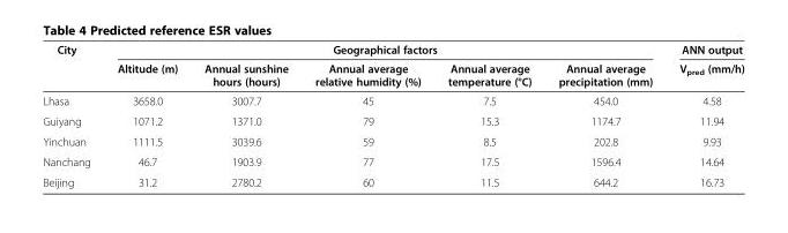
<table><thead><tr><td rowspan="2">City</td><td colspan="5">Geographical factors</td><td rowspan="2">ANN output V<sub>pred</sub> (mm/h)</td></tr><tr><td>Altitude (m)</td><td>Annual sunshine hours (hours)</td><td>Annual average relative humidity (%)</td><td>Annual average temperature (°C)</td><td>Annual average precipitation (mm)</td></tr></thead><tbody><tr><td>Lhasa</td><td>3658.0</td><td>3007.7</td><td>45</td><td>7.5</td><td>454.0</td><td>4.58</td></tr><tr><td>Guiyang</td><td>1071.2</td><td>1371.0</td><td>79</td><td>15.3</td><td>1174.7</td><td>11.94</td></tr><tr><td>Yinchuan</td><td>1111.5</td><td>3039.6</td><td>59</td><td>8.5</td><td>202.8</td><td>9.93</td></tr><tr><td>Nanchang</td><td>46.7</td><td>1903.9</td><td>77</td><td>17.5</td><td>1596.4</td><td>14.64</td></tr><tr><td>Beijing</td><td>31.2</td><td>2780.2</td><td>60</td><td>11.5</td><td>644.2</td><td>16.73</td></tr></tbody></table>